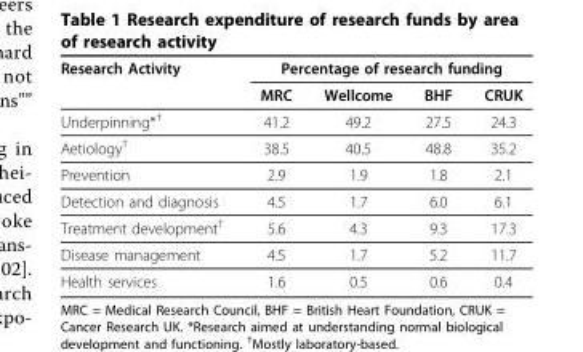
<table><thead><tr><td rowspan="2">Research Activity</td><td colspan="4">Percentage of research funding</td></tr><tr><td>MRC</td><td>Wellcome</td><td>BHF</td><td>CRUK</td></tr></thead><tbody><tr><td>Underpinning*<sup>†</sup></td><td>41.2</td><td>49.2</td><td>27.5</td><td>24.3</td></tr><tr><td>Aetiology<sup>†</sup></td><td>38.5</td><td>40.5</td><td>48.8</td><td>35.2</td></tr><tr><td>Prevention</td><td>2.9</td><td>1.9</td><td>1.8</td><td>2.1</td></tr><tr><td>Detection and diagnosis</td><td>4.5</td><td>1.7</td><td>6.0</td><td>6.1</td></tr><tr><td>Treatment development<sup>†</sup></td><td>5.6</td><td>4.3</td><td>9.3</td><td>17.3</td></tr><tr><td>Disease management</td><td>4.5</td><td>1.7</td><td>5.2</td><td>11.7</td></tr><tr><td>Health services</td><td>1.6</td><td>0.5</td><td>0.6</td><td>0.4</td></tr></tbody></table>